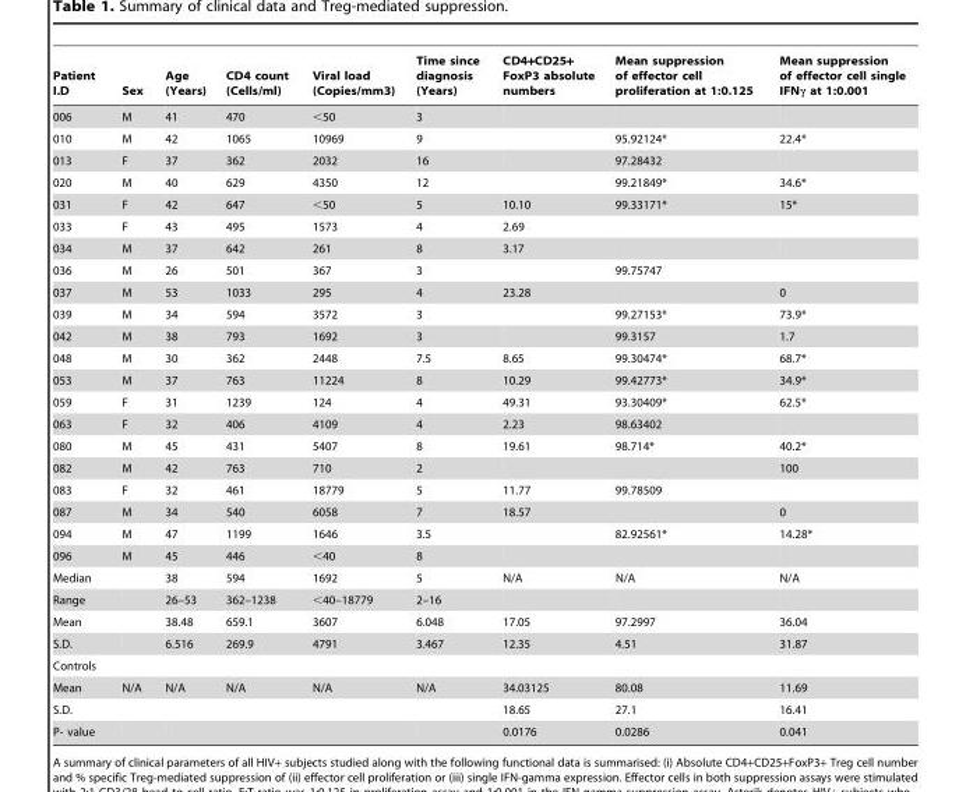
<table><thead><tr><td>Patient I.D</td><td>Sex</td><td>Age (Years)</td><td>CD4 count (Cells/ml)</td><td>Viral load (Copies/mm3)</td><td>Time since diagnosis (Years)</td><td>CD4+CD25+ FoxP3 absolute numbers</td><td>Mean suppression of effector cell proliferation at 1:0.125</td><td>Mean suppression of effector cell single IFNγ at 1:0.001</td></tr></thead><tbody><tr><td>006</td><td>M</td><td>41</td><td>470</td><td>&lt;50</td><td>3</td><td></td><td></td><td></td></tr><tr><td>010</td><td>M</td><td>42</td><td>1065</td><td>10969</td><td>9</td><td></td><td>95.92124*</td><td>22.4*</td></tr><tr><td>013</td><td>F</td><td>37</td><td>362</td><td>2032</td><td>16</td><td></td><td>97.28432</td><td></td></tr><tr><td>020</td><td>M</td><td>40</td><td>629</td><td>4350</td><td>12</td><td></td><td>99.21849*</td><td>34.6*</td></tr><tr><td>031</td><td>F</td><td>42</td><td>647</td><td>&lt;50</td><td>5</td><td>10.10</td><td>99.33171*</td><td>15*</td></tr><tr><td>033</td><td>F</td><td>43</td><td>495</td><td>1573</td><td>4</td><td>2.69</td><td></td><td></td></tr><tr><td>034</td><td>M</td><td>37</td><td>642</td><td>261</td><td>8</td><td>3.17</td><td></td><td></td></tr><tr><td>036</td><td>M</td><td>26</td><td>501</td><td>367</td><td>3</td><td></td><td>99.75747</td><td></td></tr><tr><td>037</td><td>M</td><td>53</td><td>1033</td><td>295</td><td>4</td><td>23.28</td><td></td><td>0</td></tr><tr><td>039</td><td>M</td><td>34</td><td>594</td><td>3572</td><td>3</td><td></td><td>99.27153*</td><td>73.9*</td></tr><tr><td>042</td><td>M</td><td>38</td><td>793</td><td>1692</td><td>3</td><td></td><td>99.3157</td><td>1.7</td></tr><tr><td>048</td><td>M</td><td>30</td><td>362</td><td>2448</td><td>7.5</td><td>8.65</td><td>99.30474*</td><td>68.7*</td></tr><tr><td>053</td><td>M</td><td>37</td><td>763</td><td>11224</td><td>8</td><td>10.29</td><td>99.42773*</td><td>34.9*</td></tr><tr><td>059</td><td>F</td><td>31</td><td>1239</td><td>124</td><td>4</td><td>49.31</td><td>93.30409*</td><td>62.5*</td></tr><tr><td>063</td><td>F</td><td>32</td><td>406</td><td>4109</td><td>4</td><td>2.23</td><td>98.63402</td><td></td></tr><tr><td>080</td><td>M</td><td>45</td><td>431</td><td>5407</td><td>8</td><td>19.61</td><td>98.714*</td><td>40.2*</td></tr><tr><td>082</td><td>M</td><td>42</td><td>763</td><td>710</td><td>2</td><td></td><td></td><td>100</td></tr><tr><td>083</td><td>F</td><td>32</td><td>461</td><td>18779</td><td>5</td><td>11.77</td><td>99.78509</td><td></td></tr><tr><td>087</td><td>M</td><td>34</td><td>540</td><td>6058</td><td>7</td><td>18.57</td><td></td><td>0</td></tr><tr><td>094</td><td>M</td><td>47</td><td>1199</td><td>1646</td><td>3.5</td><td></td><td>82.92561*</td><td>14.28*</td></tr><tr><td>096</td><td>M</td><td>45</td><td>446</td><td>&lt;40</td><td>8</td><td></td><td></td><td></td></tr><tr><td>Median</td><td></td><td>38</td><td>594</td><td>1692</td><td>5</td><td>N/A</td><td>N/A</td><td>N/A</td></tr><tr><td>Range</td><td></td><td>26–53</td><td>362–1238</td><td>&lt;40–18779</td><td>2–16</td><td></td><td></td><td></td></tr><tr><td>Mean</td><td></td><td>38.48</td><td>659.1</td><td>3607</td><td>6.048</td><td>17.05</td><td>97.2997</td><td>36.04</td></tr><tr><td>S.D.</td><td></td><td>6.516</td><td>269.9</td><td>4791</td><td>3.467</td><td>12.35</td><td>4.51</td><td>31.87</td></tr><tr><td colspan="9">Controls</td></tr><tr><td>Mean</td><td>N/A</td><td>N/A</td><td>N/A</td><td>N/A</td><td>N/A</td><td>34.03125</td><td>80.08</td><td>11.69</td></tr><tr><td>S.D.</td><td></td><td></td><td></td><td></td><td></td><td>18.65</td><td>27.1</td><td>16.41</td></tr><tr><td>P- value</td><td></td><td></td><td></td><td></td><td></td><td>0.0176</td><td>0.0286</td><td>0.041</td></tr></tbody></table>